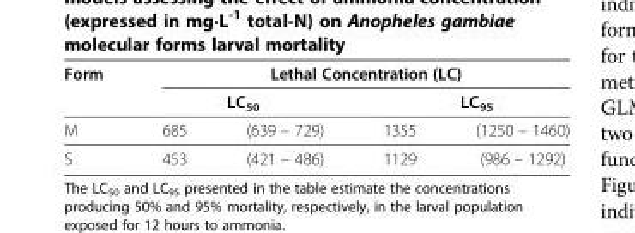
<table><thead><tr><td rowspan="3">Form M</td><td colspan="4">Lethal Concentration (LC)</td></tr><tr><td colspan="2">LC<sub>50</sub></td><td colspan="2">LC<sub>95</sub></td></tr><tr><td>685</td><td>(639 – 729)</td><td>1355</td><td>(1250 – 1460)</td></tr></thead><tbody><tr><td>S</td><td>453</td><td>(421 – 486)</td><td>1129</td><td>(986 – 1292)</td></tr></tbody></table>